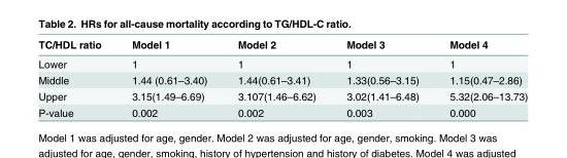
<table><thead><tr><td>TC/HDL ratio</td><td>Model 1</td><td>Model 2</td><td>Model 3</td><td>Model 4</td></tr></thead><tbody><tr><td>Lower</td><td>1</td><td>1</td><td>1</td><td>1</td></tr><tr><td>Middle</td><td>1.44 (0.61–3.40)</td><td>1.44(0.61–3.41)</td><td>1.33(0.56–3.15)</td><td>1.15(0.47–2.86)</td></tr><tr><td>Upper</td><td>3.15(1.49–6.69)</td><td>3.107(1.46–6.62)</td><td>3.02(1.41–6.48)</td><td>5.32(2.06–13.73)</td></tr><tr><td>P-value</td><td>0.002</td><td>0.002</td><td>0.003</td><td>0.000</td></tr></tbody></table>